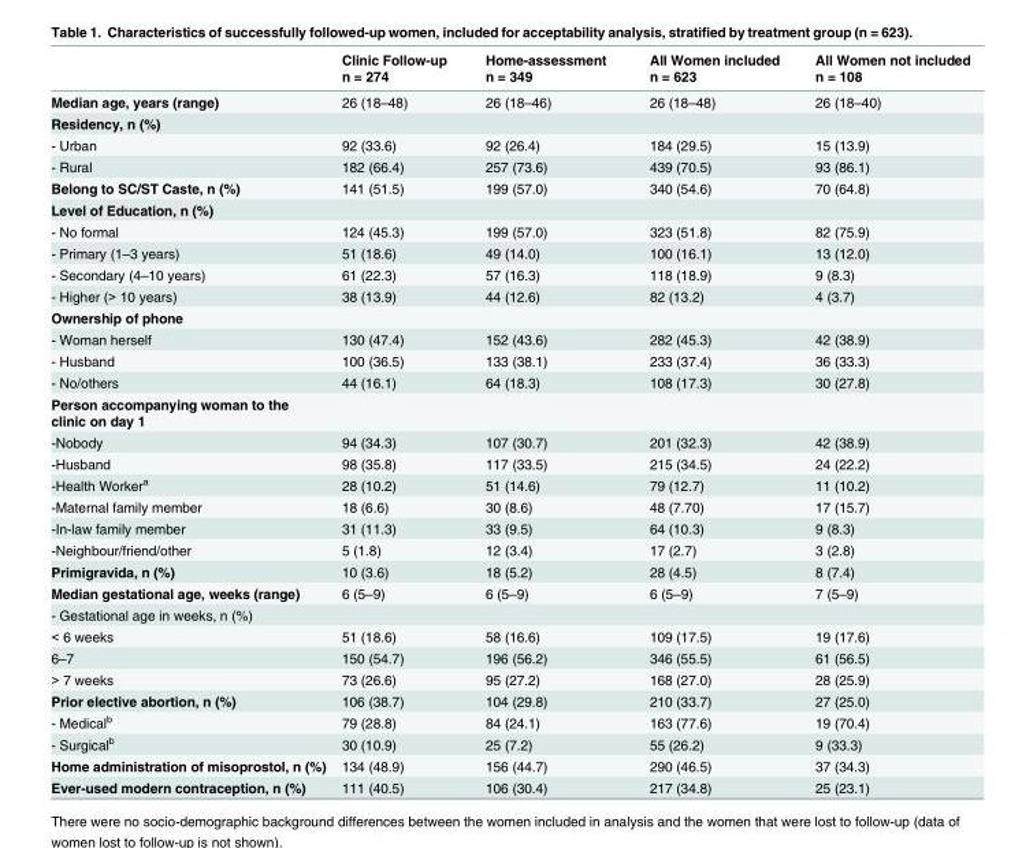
<table><thead><tr><td></td><td>Clinic Follow-up n = 274</td><td>Home-assessment n = 349</td><td>All Women included n = 623</td><td>All Women not included n = 108</td></tr></thead><tbody><tr><td>Median age, years (range)</td><td>26 (18–48)</td><td>26 (18–46)</td><td>26 (18–48)</td><td>26 (18–40)</td></tr><tr><td colspan="5">Residency, n (%)</td></tr><tr><td>- Urban</td><td>92 (33.6)</td><td>92 (26.4)</td><td>184 (29.5)</td><td>15 (13.9)</td></tr><tr><td>- Rural</td><td>182 (66.4)</td><td>257 (73.6)</td><td>439 (70.5)</td><td>93 (86.1)</td></tr><tr><td>Belong to SC/ST Caste, n (%)</td><td>141 (51.5)</td><td>199 (57.0)</td><td>340 (54.6)</td><td>70 (64.8)</td></tr><tr><td colspan="5">Level of Education, n (%)</td></tr><tr><td>- No formal</td><td>124 (45.3)</td><td>199 (57.0)</td><td>323 (51.8)</td><td>82 (75.9)</td></tr><tr><td>- Primary (1–3 years)</td><td>51 (18.6)</td><td>49 (14.0)</td><td>100 (16.1)</td><td>13 (12.0)</td></tr><tr><td>- Secondary (4–10 years)</td><td>61 (22.3)</td><td>57 (16.3)</td><td>118 (18.9)</td><td>9 (8.3)</td></tr><tr><td>- Higher (&gt; 10 years)</td><td>38 (13.9)</td><td>44 (12.6)</td><td>82 (13.2)</td><td>4 (3.7)</td></tr><tr><td colspan="5">Ownership of phone</td></tr><tr><td>- Woman herself</td><td>130 (47.4)</td><td>152 (43.6)</td><td>282 (45.3)</td><td>42 (38.9)</td></tr><tr><td>- Husband</td><td>100 (36.5)</td><td>133 (38.1)</td><td>233 (37.4)</td><td>36 (33.3)</td></tr><tr><td>- No/others</td><td>44 (16.1)</td><td>64 (18.3)</td><td>108 (17.3)</td><td>30 (27.8)</td></tr><tr><td colspan="5">Person accompanying woman to the clinic on day 1</td></tr><tr><td>-Nobody</td><td>94 (34.3)</td><td>107 (30.7)</td><td>201 (32.3)</td><td>42 (38.9)</td></tr><tr><td>-Husband</td><td>98 (35.8)</td><td>117 (33.5)</td><td>215 (34.5)</td><td>24 (22.2)</td></tr><tr><td>-Health Worker<sup>a</sup></td><td>28 (10.2)</td><td>51 (14.6)</td><td>79 (12.7)</td><td>11 (10.2)</td></tr><tr><td>-Maternal family member</td><td>18 (6.6)</td><td>30 (8.6)</td><td>48 (7.70)</td><td>17 (15.7)</td></tr><tr><td>-In-law family member</td><td>31 (11.3)</td><td>33 (9.5)</td><td>64 (10.3)</td><td>9 (8.3)</td></tr><tr><td>-Neighbour/friend/other</td><td>5 (1.8)</td><td>12 (3.4)</td><td>17 (2.7)</td><td>3 (2.8)</td></tr><tr><td>Primigravida, n (%)</td><td>10 (3.6)</td><td>18 (5.2)</td><td>28 (4.5)</td><td>8 (7.4)</td></tr><tr><td>Median gestational age, weeks (range)</td><td>6 (5–9)</td><td>6 (5–9)</td><td>6 (5–9)</td><td>7 (5–9)</td></tr><tr><td colspan="5">- Gestational age in weeks, n (%)</td></tr><tr><td>&lt; 6 weeks</td><td>51 (18.6)</td><td>58 (16.6)</td><td>109 (17.5)</td><td>19 (17.6)</td></tr><tr><td>6–7</td><td>150 (54.7)</td><td>196 (56.2)</td><td>346 (55.5)</td><td>61 (56.5)</td></tr><tr><td>&gt; 7 weeks</td><td>73 (26.6)</td><td>95 (27.2)</td><td>168 (27.0)</td><td>28 (25.9)</td></tr><tr><td>Prior elective abortion, n (%)</td><td>106 (38.7)</td><td>104 (29.8)</td><td>210 (33.7)</td><td>27 (25.0)</td></tr><tr><td>- Medical<sup>b</sup></td><td>79 (28.8)</td><td>84 (24.1)</td><td>163 (77.6)</td><td>19 (70.4)</td></tr><tr><td>- Surgical<sup>b</sup></td><td>30 (10.9)</td><td>25 (7.2)</td><td>55 (26.2)</td><td>9 (33.3)</td></tr><tr><td>Home administration of misoprostol, n (%)</td><td>134 (48.9)</td><td>156 (44.7)</td><td>290 (46.5)</td><td>37 (34.3)</td></tr><tr><td>Ever-used modern contraception, n (%)</td><td>111 (40.5)</td><td>106 (30.4)</td><td>217 (34.8)</td><td>25 (23.1)</td></tr></tbody></table>